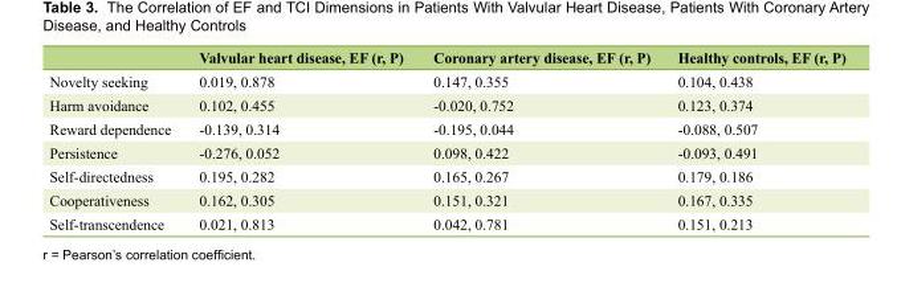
<table><thead><tr><td></td><td>Valvular heart disease, EF (r, P)</td><td>Coronary artery disease, EF (r, P)</td><td>Healthy controls, EF (r, P)</td></tr></thead><tbody><tr><td>Novelty seeking</td><td>0.019, 0.878</td><td>0.147, 0.355</td><td>0.104, 0.438</td></tr><tr><td>Harm avoidance</td><td>0.102, 0.455</td><td>-0.020, 0.752</td><td>0.123, 0.374</td></tr><tr><td>Reward dependence</td><td>-0.139, 0.314</td><td>-0.195, 0.044</td><td>-0.088, 0.507</td></tr><tr><td>Persistence</td><td>-0.276, 0.052</td><td>0.098, 0.422</td><td>-0.093, 0.491</td></tr><tr><td>Self-directedness</td><td>0.195, 0.282</td><td>0.165, 0.267</td><td>0.179, 0.186</td></tr><tr><td>Cooperativeness</td><td>0.162, 0.305</td><td>0.151, 0.321</td><td>0.167, 0.335</td></tr><tr><td>Self-transcendence</td><td>0.021, 0.813</td><td>0.042, 0.781</td><td>0.151, 0.213</td></tr></tbody></table>